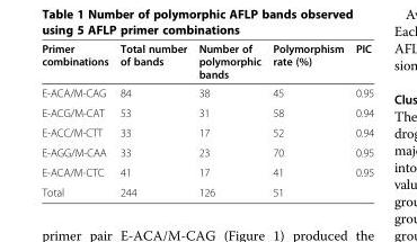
<table><thead><tr><td>Primer combinations</td><td>Total number of bands</td><td>Number of polymorphic bands</td><td>Polymorphism rate (%)</td><td>PIC</td></tr></thead><tbody><tr><td>E-ACA/M-CAG</td><td>84</td><td>38</td><td>45</td><td>0.95</td></tr><tr><td>E-ACG/M-CAT</td><td>53</td><td>31</td><td>58</td><td>0.94</td></tr><tr><td>E-ACC/M-CTT</td><td>33</td><td>17</td><td>52</td><td>0.94</td></tr><tr><td>E-AGG/M-CAA</td><td>33</td><td>23</td><td>70</td><td>0.95</td></tr><tr><td>E-ACA/M-CTC</td><td>41</td><td>17</td><td>41</td><td>0.95</td></tr><tr><td>Total</td><td>244</td><td>126</td><td>51</td><td></td></tr></tbody></table>